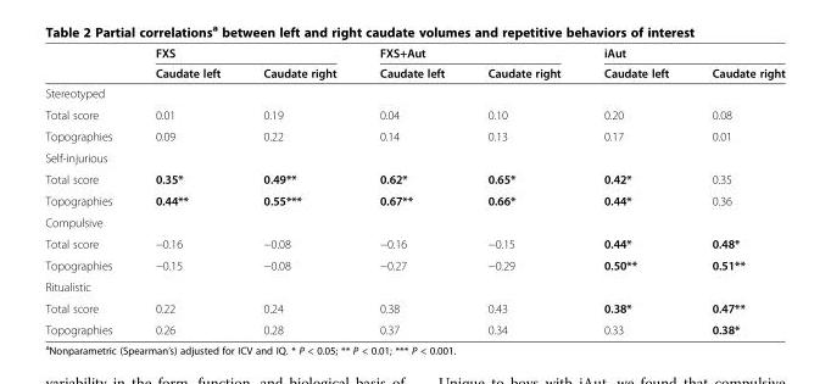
<table><thead><tr><td rowspan="2"></td><td colspan="2">FXS</td><td colspan="2">FXS+Aut</td><td colspan="2">iAut</td></tr><tr><td>Caudate left</td><td>Caudate right</td><td>Caudate left</td><td>Caudate right</td><td>Caudate left</td><td>Caudate right</td></tr></thead><tbody><tr><td colspan="7">Stereotyped</td></tr><tr><td>Total score</td><td>0.01</td><td>0.19</td><td>0.04</td><td>0.10</td><td>0.20</td><td>0.08</td></tr><tr><td>Topographies</td><td>0.09</td><td>0.22</td><td>0.14</td><td>0.13</td><td>0.17</td><td>0.01</td></tr><tr><td colspan="7">Self-injurious</td></tr><tr><td>Total score</td><td>0.35*</td><td>0.49**</td><td>0.62*</td><td>0.65*</td><td>0.42*</td><td>0.35</td></tr><tr><td>Topographies</td><td>0.44**</td><td>0.55***</td><td>0.67**</td><td>0.66*</td><td>0.44*</td><td>0.36</td></tr><tr><td colspan="7">Compulsive</td></tr><tr><td>Total score</td><td>−0.16</td><td>−0.08</td><td>−0.16</td><td>−0.15</td><td>0.44*</td><td>0.48*</td></tr><tr><td>Topographies</td><td>−0.15</td><td>−0.08</td><td>−0.27</td><td>−0.29</td><td>0.50**</td><td>0.51**</td></tr><tr><td colspan="7">Ritualistic</td></tr><tr><td>Total score</td><td>0.22</td><td>0.24</td><td>0.38</td><td>0.43</td><td>0.38*</td><td>0.47**</td></tr><tr><td>Topographies</td><td>0.26</td><td>0.28</td><td>0.37</td><td>0.34</td><td>0.33</td><td>0.38*</td></tr></tbody></table>